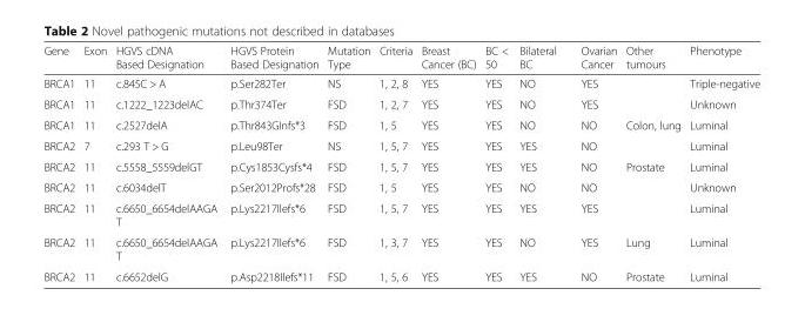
<table><thead><tr><td>Gene</td><td>Exon</td><td>HGVS cDNA Based Designation</td><td>HGVS Protein Based Designation</td><td>Mutation Type</td><td>Criteria</td><td>Breast Cancer (BC)</td><td>BC &lt; 50</td><td>Bilateral BC</td><td>Ovarian Cancer</td><td>Other tumours</td><td>Phenotype</td></tr></thead><tbody><tr><td>BRCA1</td><td>11</td><td>c.845C &gt; A</td><td>p.Ser282Ter</td><td>NS</td><td>1, 2, 8</td><td>YES</td><td>YES</td><td>NO</td><td>YES</td><td></td><td>Triple-negative</td></tr><tr><td>BRCA1</td><td>11</td><td>c.1222_1223delAC</td><td>p.Thr374Ter</td><td>FSD</td><td>1, 2, 7</td><td>YES</td><td>YES</td><td>NO</td><td>YES</td><td></td><td>Unknown</td></tr><tr><td>BRCA1</td><td>11</td><td>c.2527delA</td><td>p.Thr843GInfs*3</td><td>FSD</td><td>1, 5</td><td>YES</td><td>YES</td><td>NO</td><td>NO</td><td>Colon, lung</td><td>Luminal</td></tr><tr><td>BRCA2</td><td>7</td><td>c.293 T &gt; G</td><td>p.Leu98Ter</td><td>NS</td><td>1, 5, 7</td><td>YES</td><td>YES</td><td>YES</td><td>NO</td><td></td><td>Luminal</td></tr><tr><td>BRCA2</td><td>11</td><td>c.5558_5559delGT</td><td>p.Cys1853Cysfs*4</td><td>FSD</td><td>1, 5, 7</td><td>YES</td><td>YES</td><td>YES</td><td>NO</td><td>Prostate</td><td>Luminal</td></tr><tr><td>BRCA2</td><td>11</td><td>c.6034delT</td><td>p.Ser2012Profs*28</td><td>FSD</td><td>1, 5</td><td>YES</td><td>YES</td><td>NO</td><td>NO</td><td></td><td>Unknown</td></tr><tr><td>BRCA2</td><td>11</td><td>c.6650_6654delAAGA T</td><td>p.Lys2217Ilefs*6</td><td>FSD</td><td>1, 5, 7</td><td>YES</td><td>YES</td><td>YES</td><td>YES</td><td></td><td>Luminal</td></tr><tr><td>BRCA2</td><td>11</td><td>c.6650_6654delAAGA T</td><td>p.Lys2217Ilefs*6</td><td>FSD</td><td>1, 3, 7</td><td>YES</td><td>YES</td><td>NO</td><td>YES</td><td>Lung</td><td>Luminal</td></tr><tr><td>BRCA2</td><td>11</td><td>c.6652delG</td><td>p.Asp2218Ilefs*11</td><td>FSD</td><td>1, 5, 6</td><td>YES</td><td>YES</td><td>YES</td><td>NO</td><td>Prostate</td><td>Luminal</td></tr></tbody></table>